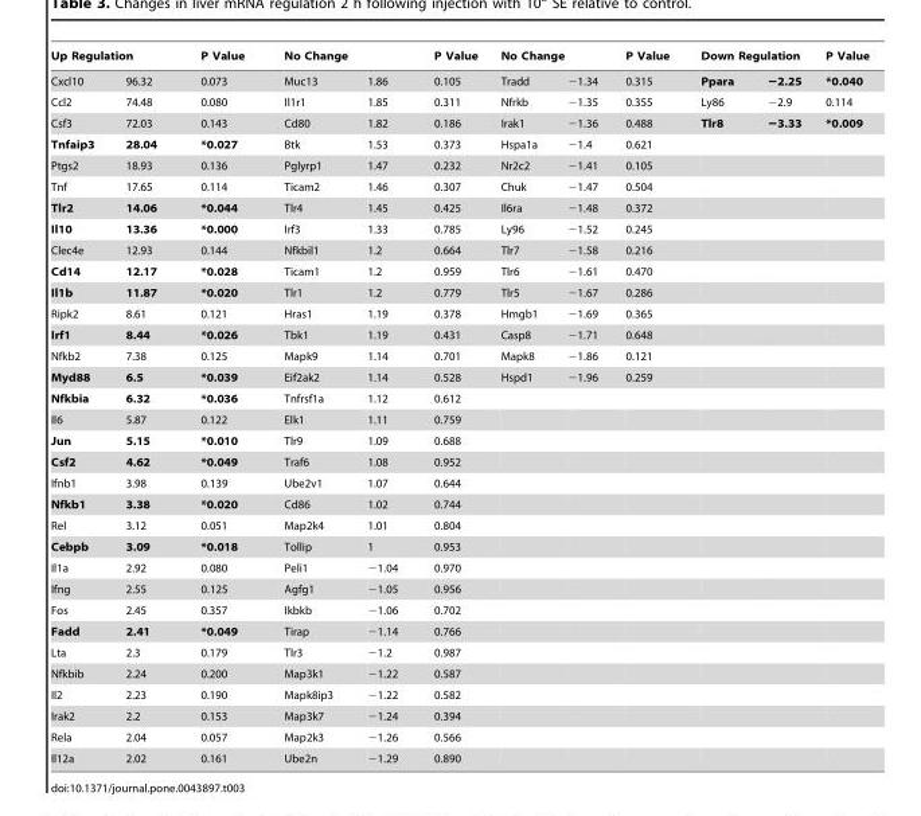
<table><thead><tr><td colspan="2">Up Regulation</td><td rowspan="2">P Value 0.073</td><td colspan="2">No Change</td><td rowspan="2">P Value 0.105</td><td colspan="2">No Change</td><td rowspan="2">P Value 0.315</td><td colspan="2">Down Regulation</td><td rowspan="2">P Value *0.040</td></tr><tr><td>Cxcl10</td><td>96.32</td><td>Muc13</td><td>1.86</td><td>Tradd</td><td>−1.34</td><td>Ppara</td><td>−2.25</td></tr></thead><tbody><tr><td>Ccl2</td><td>74.48</td><td>0.080</td><td>Il1r1</td><td>1.85</td><td>0.311</td><td>Nfrkb</td><td>−1.35</td><td>0.355</td><td>Ly86</td><td>−2.9</td><td>0.114</td></tr><tr><td>Csf3</td><td>72.03</td><td>0.143</td><td>Cd80</td><td>1.82</td><td>0.186</td><td>Irak1</td><td>−1.36</td><td>0.488</td><td>Tlr8</td><td>−3.33</td><td>*0.009</td></tr><tr><td>Tnfaip3</td><td>28.04</td><td>*0.027</td><td>Btk</td><td>1.53</td><td>0.373</td><td>Hspa1a</td><td>−1.4</td><td>0.621</td><td></td><td></td><td></td></tr><tr><td>Ptgs2</td><td>18.93</td><td>0.136</td><td>Pglyrp1</td><td>1.47</td><td>0.232</td><td>Nr2c2</td><td>−1.41</td><td>0.105</td><td></td><td></td><td></td></tr><tr><td>Tnf</td><td>17.65</td><td>0.114</td><td>Ticam2</td><td>1.46</td><td>0.307</td><td>Chuk</td><td>−1.47</td><td>0.504</td><td></td><td></td><td></td></tr><tr><td>Tlr2</td><td>14.06</td><td>*0.044</td><td>Tlr4</td><td>1.45</td><td>0.425</td><td>Il6ra</td><td>−1.48</td><td>0.372</td><td></td><td></td><td></td></tr><tr><td>Il10</td><td>13.36</td><td>*0.000</td><td>Irf3</td><td>1.33</td><td>0.785</td><td>Ly96</td><td>−1.52</td><td>0.245</td><td></td><td></td><td></td></tr><tr><td>Clec4e</td><td>12.93</td><td>0.144</td><td>Nfkbil1</td><td>1.2</td><td>0.664</td><td>Tlr7</td><td>−1.58</td><td>0.216</td><td></td><td></td><td></td></tr><tr><td>Cd14</td><td>12.17</td><td>*0.028</td><td>Ticam1</td><td>1.2</td><td>0.959</td><td>Tlr6</td><td>−1.61</td><td>0.470</td><td></td><td></td><td></td></tr><tr><td>Il1b</td><td>11.87</td><td>*0.020</td><td>Tlr1</td><td>1.2</td><td>0.779</td><td>Tlr5</td><td>−1.67</td><td>0.286</td><td></td><td></td><td></td></tr><tr><td>Ripk2</td><td>8.61</td><td>0.121</td><td>Hras1</td><td>1.19</td><td>0.378</td><td>Hmgb1</td><td>−1.69</td><td>0.365</td><td></td><td></td><td></td></tr><tr><td>Irf1</td><td>8.44</td><td>*0.026</td><td>Tbk1</td><td>1.19</td><td>0.431</td><td>Casp8</td><td>−1.71</td><td>0.648</td><td></td><td></td><td></td></tr><tr><td>Nfkb2</td><td>7.38</td><td>0.125</td><td>Mapk9</td><td>1.14</td><td>0.701</td><td>Mapk8</td><td>−1.86</td><td>0.121</td><td></td><td></td><td></td></tr><tr><td>Myd88</td><td>6.5</td><td>*0.039</td><td>Eif2ak2</td><td>1.14</td><td>0.528</td><td>Hspd1</td><td>−1.96</td><td>0.259</td><td></td><td></td><td></td></tr><tr><td>Nfkbia</td><td>6.32</td><td>*0.036</td><td>Tnfrsf1a</td><td>1.12</td><td>0.612</td><td></td><td></td><td></td><td></td><td></td><td></td></tr><tr><td>Il6</td><td>5.87</td><td>0.122</td><td>Elk1</td><td>1.11</td><td>0.759</td><td></td><td></td><td></td><td></td><td></td><td></td></tr><tr><td>Jun</td><td>5.15</td><td>*0.010</td><td>Tlr9</td><td>1.09</td><td>0.688</td><td></td><td></td><td></td><td></td><td></td><td></td></tr><tr><td>Csf2</td><td>4.62</td><td>*0.049</td><td>Traf6</td><td>1.08</td><td>0.952</td><td></td><td></td><td></td><td></td><td></td><td></td></tr><tr><td>Ifnb1</td><td>3.98</td><td>0.139</td><td>Ube2v1</td><td>1.07</td><td>0.644</td><td></td><td></td><td></td><td></td><td></td><td></td></tr><tr><td>Nfkb1</td><td>3.38</td><td>*0.020</td><td>Cd86</td><td>1.02</td><td>0.744</td><td></td><td></td><td></td><td></td><td></td><td></td></tr><tr><td>Rel</td><td>3.12</td><td>0.051</td><td>Map2k4</td><td>1.01</td><td>0.804</td><td></td><td></td><td></td><td></td><td></td><td></td></tr><tr><td>Cebpb</td><td>3.09</td><td>*0.018</td><td>Tollip</td><td>1</td><td>0.953</td><td></td><td></td><td></td><td></td><td></td><td></td></tr><tr><td>Il1a</td><td>2.92</td><td>0.080</td><td>Peli1</td><td>−1.04</td><td>0.970</td><td></td><td></td><td></td><td></td><td></td><td></td></tr><tr><td>Ifng</td><td>2.55</td><td>0.125</td><td>Agfg1</td><td>−1.05</td><td>0.956</td><td></td><td></td><td></td><td></td><td></td><td></td></tr><tr><td>Fos</td><td>2.45</td><td>0.357</td><td>Ikbkb</td><td>−1.06</td><td>0.702</td><td></td><td></td><td></td><td></td><td></td><td></td></tr><tr><td>Fadd</td><td>2.41</td><td>*0.049</td><td>Tirap</td><td>−1.14</td><td>0.766</td><td></td><td></td><td></td><td></td><td></td><td></td></tr><tr><td>Lta</td><td>2.3</td><td>0.179</td><td>Tlr3</td><td>−1.2</td><td>0.987</td><td></td><td></td><td></td><td></td><td></td><td></td></tr><tr><td>Nfkbib</td><td>2.24</td><td>0.200</td><td>Map3k1</td><td>−1.22</td><td>0.587</td><td></td><td></td><td></td><td></td><td></td><td></td></tr><tr><td>Il2</td><td>2.23</td><td>0.190</td><td>Mapk8ip3</td><td>−1.22</td><td>0.582</td><td></td><td></td><td></td><td></td><td></td><td></td></tr><tr><td>Irak2</td><td>2.2</td><td>0.153</td><td>Map3k7</td><td>−1.24</td><td>0.394</td><td></td><td></td><td></td><td></td><td></td><td></td></tr><tr><td>Rela</td><td>2.04</td><td>0.057</td><td>Map2k3</td><td>−1.26</td><td>0.566</td><td></td><td></td><td></td><td></td><td></td><td></td></tr><tr><td>Il12a</td><td>2.02</td><td>0.161</td><td>Ube2n</td><td>−1.29</td><td>0.890</td><td></td><td></td><td></td><td></td><td></td><td></td></tr></tbody></table>